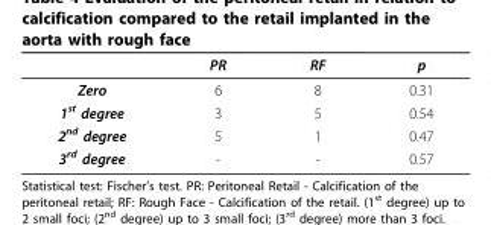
<table><thead><tr><td></td><td>PR</td><td>RF</td><td>p</td></tr></thead><tbody><tr><td>Zero</td><td>6</td><td>8</td><td>0.31</td></tr><tr><td>1<sup>st</sup> degree</td><td>3</td><td>5</td><td>0.54</td></tr><tr><td>2<sup>nd</sup> degree</td><td>5</td><td>1</td><td>0.47</td></tr><tr><td>3<sup>rd</sup> degree</td><td>-</td><td>-</td><td>0.57</td></tr></tbody></table>